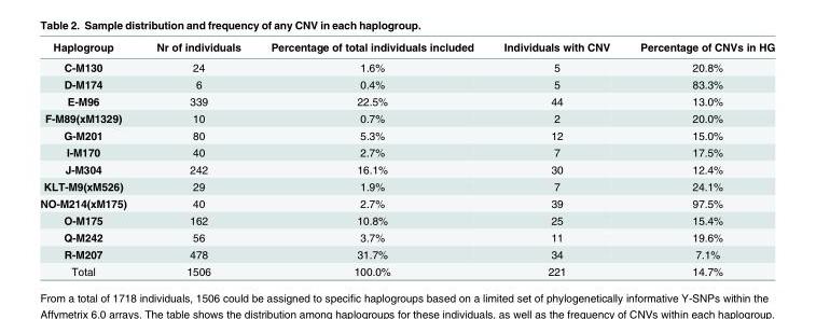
<table><thead><tr><td>Haplogroup</td><td>Nr of individuals</td><td>Percentage of total individuals included</td><td>Individuals with CNV</td><td>Percentage of CNVs in HG</td></tr></thead><tbody><tr><td>C-M130</td><td>24</td><td>1.6%</td><td>5</td><td>20.8%</td></tr><tr><td>D-M174</td><td>6</td><td>0.4%</td><td>5</td><td>83.3%</td></tr><tr><td>E-M96</td><td>339</td><td>22.5%</td><td>44</td><td>13.0%</td></tr><tr><td>F-M89(xM1329)</td><td>10</td><td>0.7%</td><td>2</td><td>20.0%</td></tr><tr><td>G-M201</td><td>80</td><td>5.3%</td><td>12</td><td>15.0%</td></tr><tr><td>I-M170</td><td>40</td><td>2.7%</td><td>7</td><td>17.5%</td></tr><tr><td>J-M304</td><td>242</td><td>16.1%</td><td>30</td><td>12.4%</td></tr><tr><td>KLT-M9(xM526)</td><td>29</td><td>1.9%</td><td>7</td><td>24.1%</td></tr><tr><td>NO-M214(xM175)</td><td>40</td><td>2.7%</td><td>39</td><td>97.5%</td></tr><tr><td>O-M175</td><td>162</td><td>10.8%</td><td>25</td><td>15.4%</td></tr><tr><td>Q-M242</td><td>56</td><td>3.7%</td><td>11</td><td>19.6%</td></tr><tr><td>R-M207</td><td>478</td><td>31.7%</td><td>34</td><td>7.1%</td></tr><tr><td>Total</td><td>1506</td><td>100.0%</td><td>221</td><td>14.7%</td></tr></tbody></table>